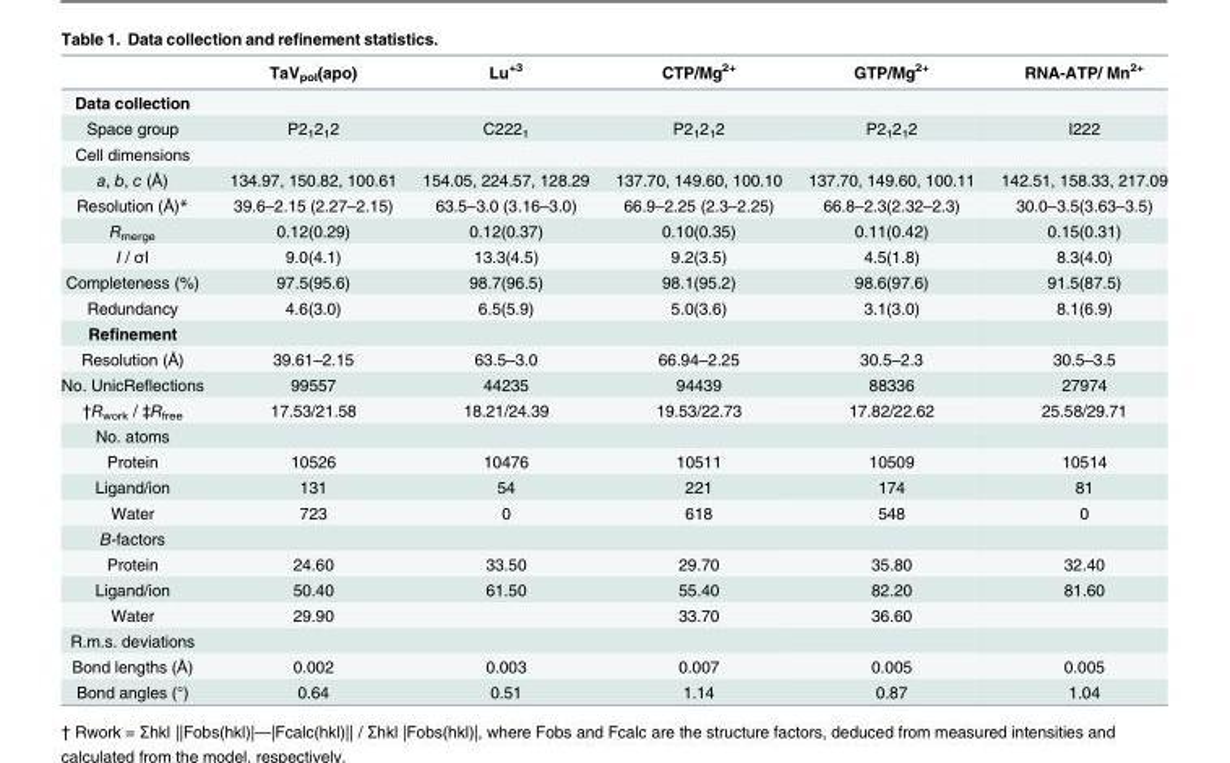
<table><thead><tr><td></td><td>TaV<sub>pol</sub>(apo)</td><td>Lu<sup>+3</sup></td><td>CTP/Mg<sup>2+</sup></td><td>GTP/Mg<sup>2+</sup></td><td>RNA-ATP/ Mn<sup>2+</sup></td></tr></thead><tbody><tr><td colspan="6">Data collection</td></tr><tr><td>Space group</td><td>P2<sub>1</sub>2<sub>1</sub>2</td><td>C222<sub>1</sub></td><td>P2<sub>1</sub>2<sub>1</sub>2</td><td>P2<sub>1</sub>2<sub>1</sub>2</td><td>I222</td></tr><tr><td colspan="6">Cell dimensions</td></tr><tr><td>a, b, c (Å)</td><td>134.97, 150.82, 100.61</td><td>154.05, 224.57, 128.29</td><td>137.70, 149.60, 100.10</td><td>137.70, 149.60, 100.11</td><td>142.51, 158.33, 217.09</td></tr><tr><td>Resolution (Å)*</td><td>39.6–2.15 (2.27–2.15)</td><td>63.5–3.0 (3.16–3.0)</td><td>66.9–2.25 (2.3–2.25)</td><td>66.8–2.3(2.32–2.3)</td><td>30.0–3.5(3.63–3.5)</td></tr><tr><td>R<sub>merge</sub></td><td>0.12(0.29)</td><td>0.12(0.37)</td><td>0.10(0.35)</td><td>0.11(0.42)</td><td>0.15(0.31)</td></tr><tr><td>I / σI</td><td>9.0(4.1)</td><td>13.3(4.5)</td><td>9.2(3.5)</td><td>4.5(1.8)</td><td>8.3(4.0)</td></tr><tr><td>Completeness (%)</td><td>97.5(95.6)</td><td>98.7(96.5)</td><td>98.1(95.2)</td><td>98.6(97.6)</td><td>91.5(87.5)</td></tr><tr><td>Redundancy</td><td>4.6(3.0)</td><td>6.5(5.9)</td><td>5.0(3.6)</td><td>3.1(3.0)</td><td>8.1(6.9)</td></tr><tr><td colspan="6">Refinement</td></tr><tr><td>Resolution (Å)</td><td>39.61–2.15</td><td>63.5–3.0</td><td>66.94–2.25</td><td>30.5–2.3</td><td>30.5–3.5</td></tr><tr><td>No. UnicReflections</td><td>99557</td><td>44235</td><td>94439</td><td>88336</td><td>27974</td></tr><tr><td>†R<sub>work</sub> / ‡R<sub>free</sub></td><td>17.53/21.58</td><td>18.21/24.39</td><td>19.53/22.73</td><td>17.82/22.62</td><td>25.58/29.71</td></tr><tr><td colspan="6">No. atoms</td></tr><tr><td>Protein</td><td>10526</td><td>10476</td><td>10511</td><td>10509</td><td>10514</td></tr><tr><td>Ligand/ion</td><td>131</td><td>54</td><td>221</td><td>174</td><td>81</td></tr><tr><td>Water</td><td>723</td><td>0</td><td>618</td><td>548</td><td>0</td></tr><tr><td colspan="6">B-factors</td></tr><tr><td>Protein</td><td>24.60</td><td>33.50</td><td>29.70</td><td>35.80</td><td>32.40</td></tr><tr><td>Ligand/ion</td><td>50.40</td><td>61.50</td><td>55.40</td><td>82.20</td><td>81.60</td></tr><tr><td>Water</td><td>29.90</td><td></td><td>33.70</td><td>36.60</td><td></td></tr><tr><td colspan="6">R.m.s. deviations</td></tr><tr><td>Bond lengths (Å)</td><td>0.002</td><td>0.003</td><td>0.007</td><td>0.005</td><td>0.005</td></tr><tr><td>Bond angles (°)</td><td>0.64</td><td>0.51</td><td>1.14</td><td>0.87</td><td>1.04</td></tr></tbody></table>